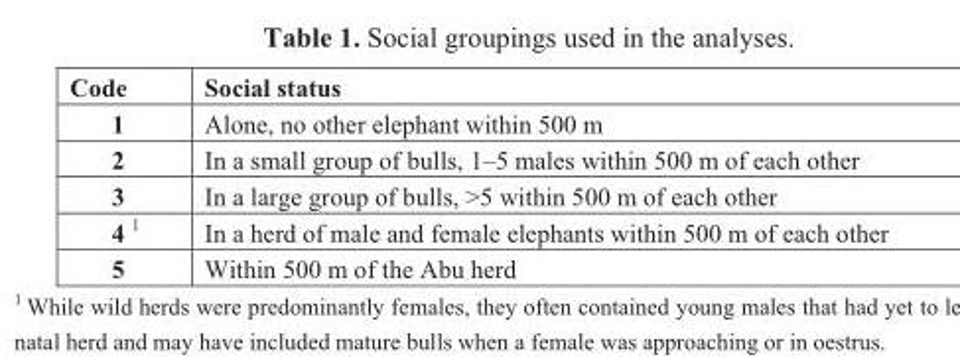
<table><thead><tr><td>Code</td><td>Social status</td></tr></thead><tbody><tr><td>1</td><td>Alone, no other elephant within 500 m</td></tr><tr><td>2</td><td>In a small group of bulls, 1–5 males within 500 m of each other</td></tr><tr><td>3</td><td>In a large group of bulls, &gt;5 within 500 m of each other</td></tr><tr><td>4 <sup>1</sup></td><td>In a herd of male and female elephants within 500 m of each other</td></tr><tr><td>5</td><td>Within 500 m of the Abu herd</td></tr></tbody></table>